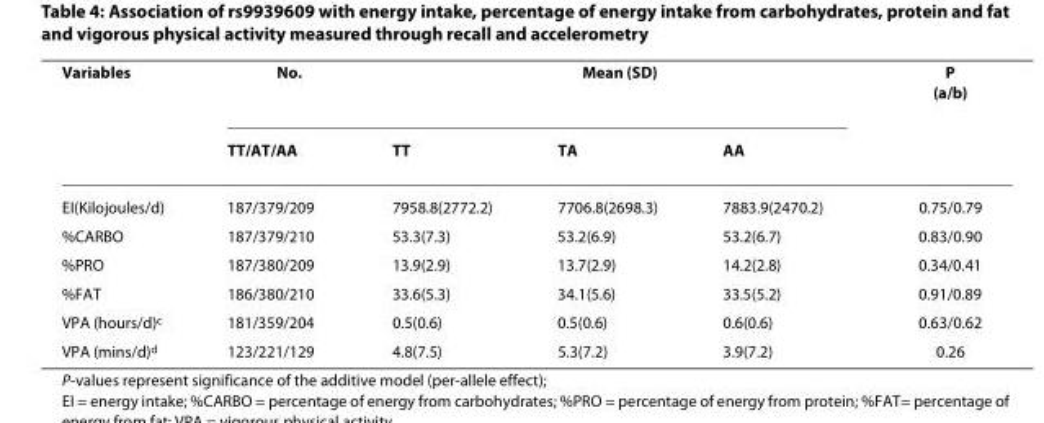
<table><thead><tr><td rowspan="2">Variables</td><td rowspan="2">No. TT/AT/AA</td><td colspan="3">Mean (SD)</td><td rowspan="2">P (a/b)</td></tr><tr><td>TT</td><td>TA</td><td>AA</td></tr></thead><tbody><tr><td>EI(Kilojoules/d)</td><td>187/379/209</td><td>7958.8(2772.2)</td><td>7706.8(2698.3)</td><td>7883.9(2470.2)</td><td>0.75/0.79</td></tr><tr><td>%CARBO</td><td>187/379/210</td><td>53.3(7.3)</td><td>53.2(6.9)</td><td>53.2(6.7)</td><td>0.83/0.90</td></tr><tr><td>%PRO</td><td>187/380/209</td><td>13.9(2.9)</td><td>13.7(2.9)</td><td>14.2(2.8)</td><td>0.34/0.41</td></tr><tr><td>%FAT</td><td>186/380/210</td><td>33.6(5.3)</td><td>34.1(5.6)</td><td>33.5(5.2)</td><td>0.91/0.89</td></tr><tr><td>VPA (hours/d)<sup>c</sup></td><td>181/359/204</td><td>0.5(0.6)</td><td>0.5(0.6)</td><td>0.6(0.6)</td><td>0.63/0.62</td></tr><tr><td>VPA (mins/d)<sup>d</sup></td><td>123/221/129</td><td>4.8(7.5)</td><td>5.3(7.2)</td><td>3.9(7.2)</td><td>0.26</td></tr></tbody></table>